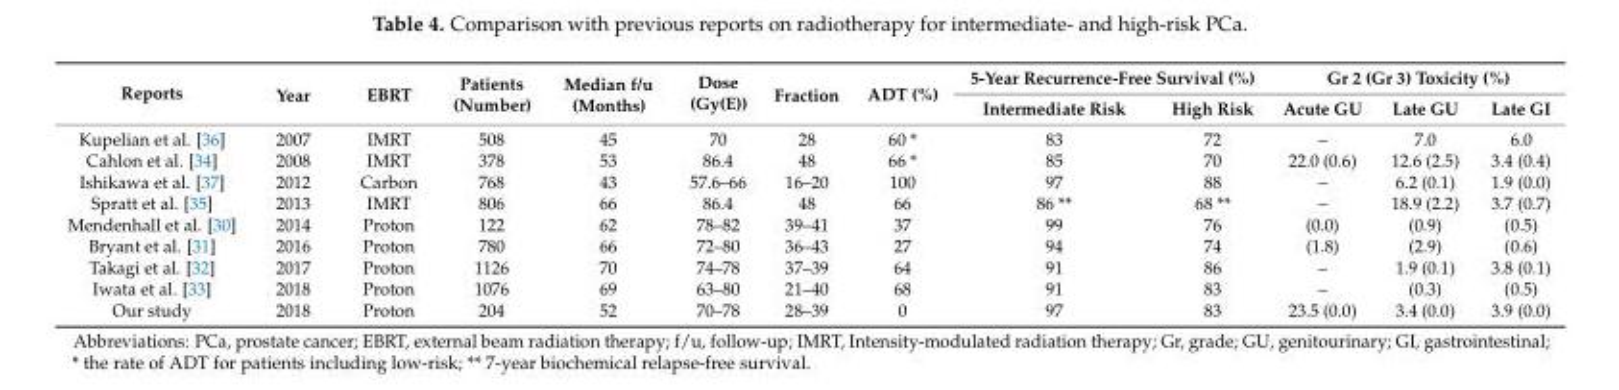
<table><thead><tr><td rowspan="2">Reports</td><td rowspan="2">Year</td><td rowspan="2">EBRT</td><td rowspan="2">Patients (Number)</td><td rowspan="2">Median f/u (Months)</td><td rowspan="2">Dose (Gy(E))</td><td rowspan="2">Fraction</td><td rowspan="2">ADT (%)</td><td colspan="2">5-Year Recurrence-Free Survival (%)</td><td colspan="3">Gr 2 (Gr 3) Toxicity (%)</td></tr><tr><td>Intermediate Risk</td><td>High Risk</td><td>Acute GU</td><td>Late GU</td><td>Late GI</td></tr></thead><tbody><tr><td>Kupelian et al. [36]</td><td>2007</td><td>IMRT</td><td>508</td><td>45</td><td>70</td><td>28</td><td>60 *</td><td>83</td><td>72</td><td>–</td><td>7.0</td><td>6.0</td></tr><tr><td>Cahlon et al. [34]</td><td>2008</td><td>IMRT</td><td>378</td><td>53</td><td>86.4</td><td>48</td><td>66 *</td><td>85</td><td>70</td><td>22.0 (0.6)</td><td>12.6 (2.5)</td><td>3.4 (0.4)</td></tr><tr><td>Ishikawa et al. [37]</td><td>2012</td><td>Carbon</td><td>768</td><td>43</td><td>57.6–66</td><td>16–20</td><td>100</td><td>97</td><td>88</td><td>–</td><td>6.2 (0.1)</td><td>1.9 (0.0)</td></tr><tr><td>Spratt et al. [35]</td><td>2013</td><td>IMRT</td><td>806</td><td>66</td><td>86.4</td><td>48</td><td>66</td><td>86 **</td><td>68 **</td><td>–</td><td>18.9 (2.2)</td><td>3.7 (0.7)</td></tr><tr><td>Mendenhall et al. [30]</td><td>2014</td><td>Proton</td><td>122</td><td>62</td><td>78–82</td><td>39–41</td><td>37</td><td>99</td><td>76</td><td>(0.0)</td><td>(0.9)</td><td>(0.5)</td></tr><tr><td>Bryant et al. [31]</td><td>2016</td><td>Proton</td><td>780</td><td>66</td><td>72–80</td><td>36–43</td><td>27</td><td>94</td><td>74</td><td>(1.8)</td><td>(2.9)</td><td>(0.6)</td></tr><tr><td>Takagi et al. [32]</td><td>2017</td><td>Proton</td><td>1126</td><td>70</td><td>74–78</td><td>37–39</td><td>64</td><td>91</td><td>86</td><td>–</td><td>1.9 (0.1)</td><td>3.8 (0.1)</td></tr><tr><td>Iwata et al. [33]</td><td>2018</td><td>Proton</td><td>1076</td><td>69</td><td>63–80</td><td>21–40</td><td>68</td><td>91</td><td>83</td><td>–</td><td>(0.3)</td><td>(0.5)</td></tr><tr><td>Our study</td><td>2018</td><td>Proton</td><td>204</td><td>52</td><td>70–78</td><td>28–39</td><td>0</td><td>97</td><td>83</td><td>23.5 (0.0)</td><td>3.4 (0.0)</td><td>3.9 (0.0)</td></tr></tbody></table>